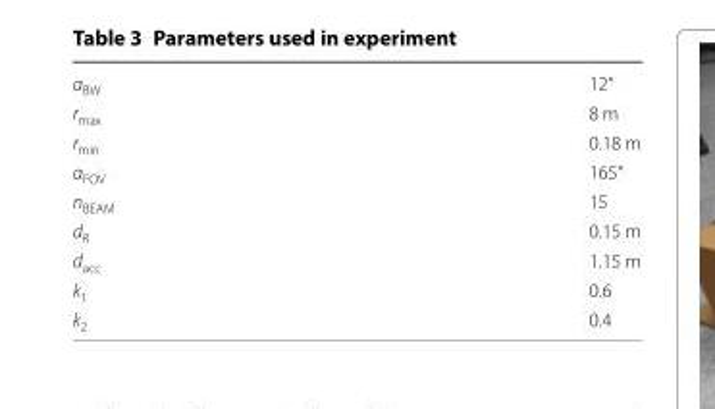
<table><tbody><tr><td>α<sub>BW</sub></td><td>12°</td></tr><tr><td>r<sub>max</sub></td><td>8 m</td></tr><tr><td>r<sub>min</sub></td><td>0.18 m</td></tr><tr><td>α<sub>FOV</sub></td><td>165°</td></tr><tr><td>n<sub>BEAM</sub></td><td>15</td></tr><tr><td>d<sub>R</sub></td><td>0.15 m</td></tr><tr><td>d<sub>acc</sub></td><td>1.15 m</td></tr><tr><td>k<sub>1</sub></td><td>0.6</td></tr><tr><td>k<sub>2</sub></td><td>0.4</td></tr></tbody></table>